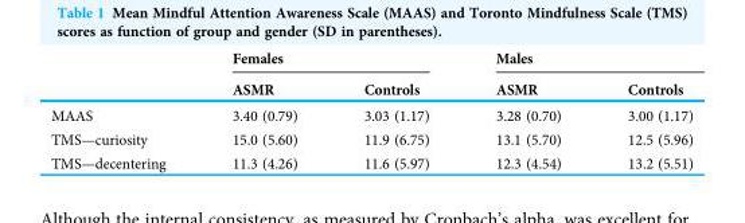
<table><thead><tr><td rowspan="2"></td><td colspan="2">Females</td><td colspan="2">Males</td></tr><tr><td>ASMR</td><td>Controls</td><td>ASMR</td><td>Controls</td></tr></thead><tbody><tr><td>MAAS</td><td>3.40 (0.79)</td><td>3.03 (1.17)</td><td>3.28 (0.70)</td><td>3.00 (1.17)</td></tr><tr><td>TMS—curiosity</td><td>15.0 (5.60)</td><td>11.9 (6.75)</td><td>13.1 (5.70)</td><td>12.5 (5.96)</td></tr><tr><td>TMS—decentering</td><td>11.3 (4.26)</td><td>11.6 (5.97)</td><td>12.3 (4.54)</td><td>13.2 (5.51)</td></tr></tbody></table>